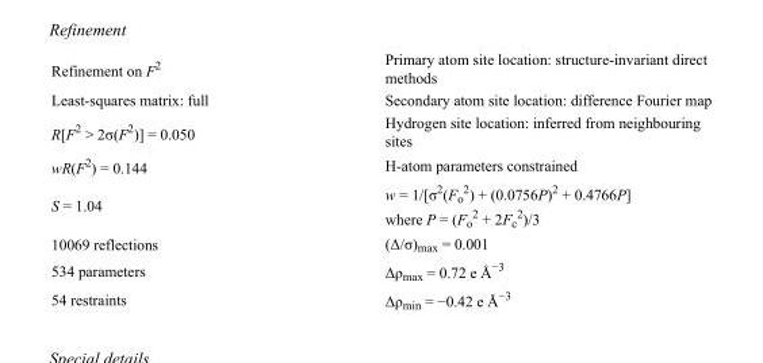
<table><tbody><tr><td>Refinement on F<sup>2</sup></td><td>Primary atom site location: structure-invariant direct methods</td></tr><tr><td>Least-squares matrix: full</td><td>Secondary atom site location: difference Fourier map</td></tr><tr><td>R[F<sup>2</sup> &gt; 2σ(F<sup>2</sup>)] = 0.050</td><td>Hydrogen site location: inferred from neighbouring sites</td></tr><tr><td>wR(F<sup>2</sup>) = 0.144</td><td>H-atom parameters constrained</td></tr><tr><td>S = 1.04</td><td>w = 1/[σ<sup>2</sup>(F<sub>o</sub> <sup>2</sup>) + (0.0756P)<sup>2</sup> + 0.4766P] where P = (F<sub>o</sub> <sup>2</sup> + 2F<sub>c</sub> <sup>2</sup>)/3</td></tr><tr><td>10069 reflections</td><td>(Δ/σ)<sub>max</sub> = 0.001</td></tr><tr><td>534 parameters</td><td>Δρ<sub>max</sub> = 0.72 e Å<sup>−3</sup></td></tr><tr><td>54 restraints</td><td>Δρ<sub>min</sub> = −0.42 e Å<sup>−3</sup></td></tr></tbody></table>